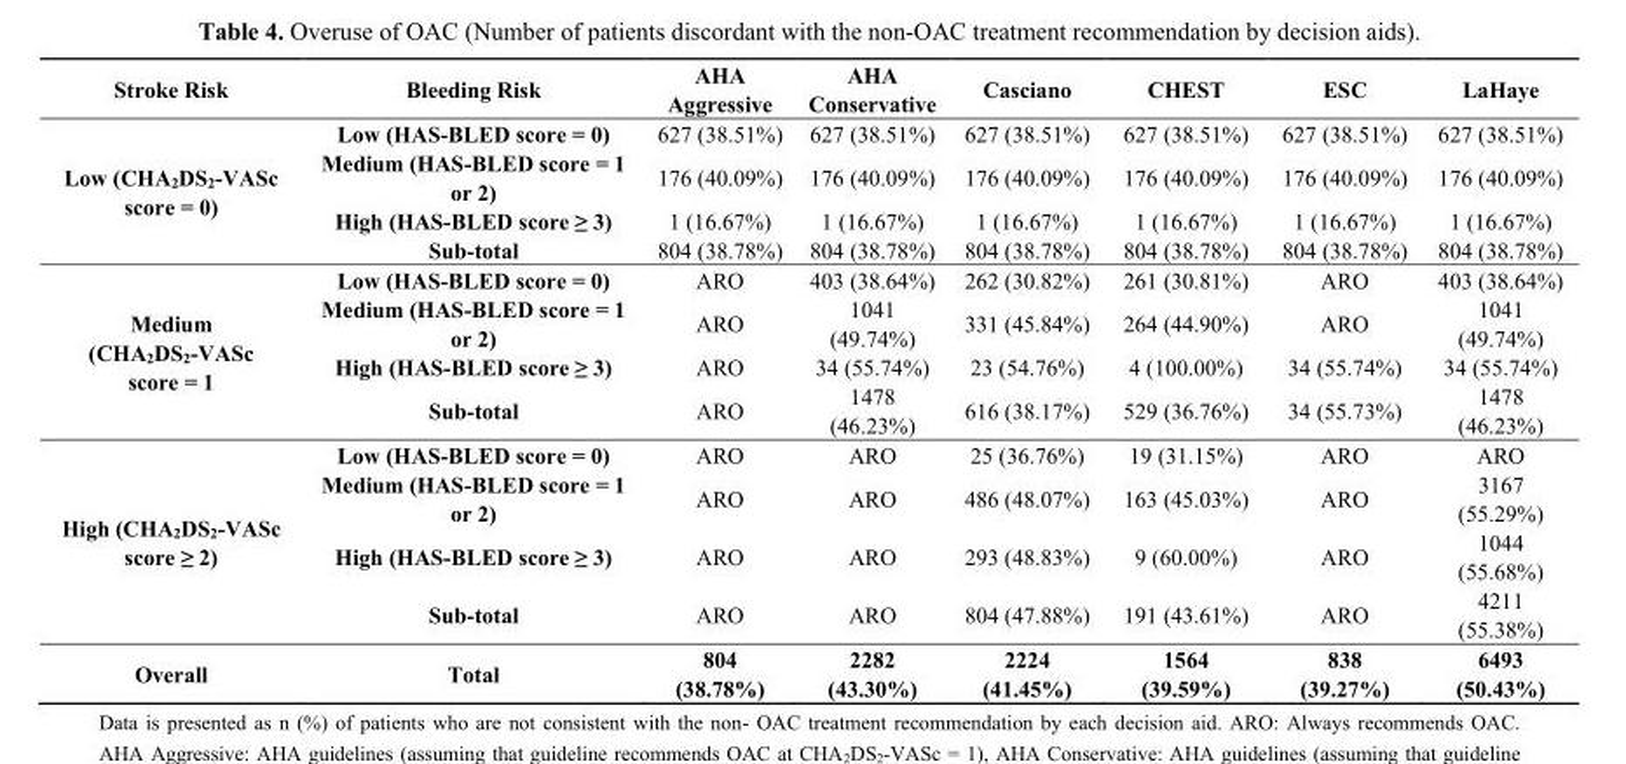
<table><thead><tr><td>Stroke Risk</td><td>Bleeding Risk</td><td>AHA Aggressive</td><td>AHA Conservative</td><td>Casciano</td><td>CHEST</td><td>ESC</td><td>LaHaye</td></tr></thead><tbody><tr><td rowspan="4">Low (CHA<sub>2</sub>DS<sub>2</sub>-VASc score = 0)</td><td>Low (HAS-BLED score = 0)</td><td>627 (38.51%)</td><td>627 (38.51%)</td><td>627 (38.51%)</td><td>627 (38.51%)</td><td>627 (38.51%)</td><td>627 (38.51%)</td></tr><tr><td>Medium (HAS-BLED score = 1 or 2)</td><td>176 (40.09%)</td><td>176 (40.09%)</td><td>176 (40.09%)</td><td>176 (40.09%)</td><td>176 (40.09%)</td><td>176 (40.09%)</td></tr><tr><td>High (HAS-BLED score ≥ 3)</td><td>1 (16.67%)</td><td>1 (16.67%)</td><td>1 (16.67%)</td><td>1 (16.67%)</td><td>1 (16.67%)</td><td>1 (16.67%)</td></tr><tr><td>Sub-total</td><td>804 (38.78%)</td><td>804 (38.78%)</td><td>804 (38.78%)</td><td>804 (38.78%)</td><td>804 (38.78%)</td><td>804 (38.78%)</td></tr><tr><td rowspan="4">Medium (CHA<sub>2</sub>DS<sub>2</sub>-VASc score = 1</td><td>Low (HAS-BLED score = 0)</td><td>ARO</td><td>403 (38.64%)</td><td>262 (30.82%)</td><td>261 (30.81%)</td><td>ARO</td><td>403 (38.64%)</td></tr><tr><td>Medium (HAS-BLED score = 1 or 2)</td><td>ARO</td><td>1041 (49.74%)</td><td>331 (45.84%)</td><td>264 (44.90%)</td><td>ARO</td><td>1041 (49.74%)</td></tr><tr><td>High (HAS-BLED score ≥ 3)</td><td>ARO</td><td>34 (55.74%)</td><td>23 (54.76%)</td><td>4 (100.00%)</td><td>34 (55.74%)</td><td>34 (55.74%)</td></tr><tr><td>Sub-total</td><td>ARO</td><td>1478 (46.23%)</td><td>616 (38.17%)</td><td>529 (36.76%)</td><td>34 (55.73%)</td><td>1478 (46.23%)</td></tr><tr><td rowspan="4">High (CHA<sub>2</sub>DS<sub>2</sub>-VASc score ≥ 2)</td><td>Low (HAS-BLED score = 0)</td><td>ARO</td><td>ARO</td><td>25 (36.76%)</td><td>19 (31.15%)</td><td>ARO</td><td>ARO</td></tr><tr><td>Medium (HAS-BLED score = 1 or 2)</td><td>ARO</td><td>ARO</td><td>486 (48.07%)</td><td>163 (45.03%)</td><td>ARO</td><td>3167 (55.29%)</td></tr><tr><td>High (HAS-BLED score ≥ 3)</td><td>ARO</td><td>ARO</td><td>293 (48.83%)</td><td>9 (60.00%)</td><td>ARO</td><td>1044 (55.68%)</td></tr><tr><td>Sub-total</td><td>ARO</td><td>ARO</td><td>804 (47.88%)</td><td>191 (43.61%)</td><td>ARO</td><td>4211 (55.38%)</td></tr><tr><td>Overall</td><td>Total</td><td>804 (38.78%)</td><td>2282 (43.30%)</td><td>2224 (41.45%)</td><td>1564 (39.59%)</td><td>838 (39.27%)</td><td>6493 (50.43%)</td></tr></tbody></table>